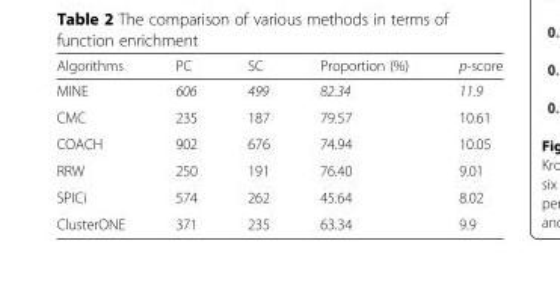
<table><thead><tr><td>Algorithms</td><td>PC</td><td>SC</td><td>Proportion (%)</td><td>p-score</td></tr></thead><tbody><tr><td>MINE</td><td>606</td><td>499</td><td>82.34</td><td>11.9</td></tr><tr><td>CMC</td><td>235</td><td>187</td><td>79.57</td><td>10.61</td></tr><tr><td>COACH</td><td>902</td><td>676</td><td>74.94</td><td>10.05</td></tr><tr><td>RRW</td><td>250</td><td>191</td><td>76.40</td><td>9.01</td></tr><tr><td>SPICi</td><td>574</td><td>262</td><td>45.64</td><td>8.02</td></tr><tr><td>ClusterONE</td><td>371</td><td>235</td><td>63.34</td><td>9.9</td></tr></tbody></table>